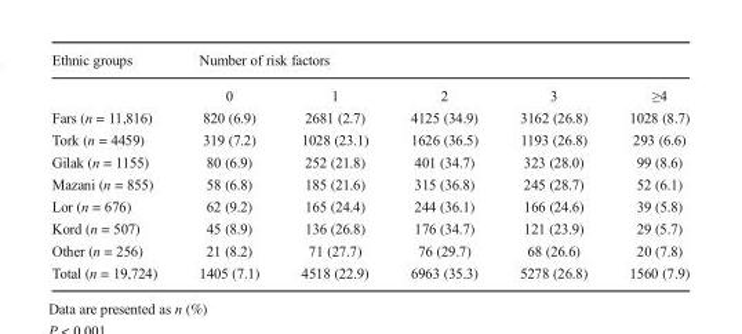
<table><thead><tr><td rowspan="2">Ethnic groups</td><td colspan="5">Number of risk factors</td></tr><tr><td>0</td><td>1</td><td>2</td><td>3</td><td>≥4</td></tr></thead><tbody><tr><td>Fars (n = 11,816)</td><td>820 (6.9)</td><td>2681 (2.7)</td><td>4125 (34.9)</td><td>3162 (26.8)</td><td>1028 (8.7)</td></tr><tr><td>Tork (n = 4459)</td><td>319 (7.2)</td><td>1028 (23.1)</td><td>1626 (36.5)</td><td>1193 (26.8)</td><td>293 (6.6)</td></tr><tr><td>Gilak (n = 1155)</td><td>80 (6.9)</td><td>252 (21.8)</td><td>401 (34.7)</td><td>323 (28.0)</td><td>99 (8.6)</td></tr><tr><td>Mazani (n = 855)</td><td>58 (6.8)</td><td>185 (21.6)</td><td>315 (36.8)</td><td>245 (28.7)</td><td>52 (6.1)</td></tr><tr><td>Lor (n = 676)</td><td>62 (9.2)</td><td>165 (24.4)</td><td>244 (36.1)</td><td>166 (24.6)</td><td>39 (5.8)</td></tr><tr><td>Kord (n = 507)</td><td>45 (8.9)</td><td>136 (26.8)</td><td>176 (34.7)</td><td>121 (23.9)</td><td>29 (5.7)</td></tr><tr><td>Other (n = 256)</td><td>21 (8.2)</td><td>71 (27.7)</td><td>76 (29.7)</td><td>68 (26.6)</td><td>20 (7.8)</td></tr><tr><td>Total (n = 19,724)</td><td>1405 (7.1)</td><td>4518 (22.9)</td><td>6963 (35.3)</td><td>5278 (26.8)</td><td>1560 (7.9)</td></tr></tbody></table>